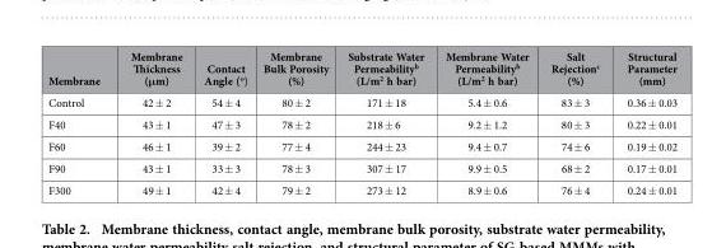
<table><thead><tr><td>Membrane</td><td>Membrane Thickness (μm)</td><td>Contact Angle (<sup>ο</sup>)</td><td>Membrane Bulk Porosity (%)</td><td>Substrate Water Permeability<sup>b</sup> (L/m<sup>2</sup> h bar)</td><td>Membrane Water Permeability<sup>b</sup> (L/m<sup>2</sup> h bar)</td><td>Salt Rejection<sup>c</sup> (%)</td><td>Structural Parameter (mm)</td></tr></thead><tbody><tr><td>Control</td><td>42 ± 2</td><td>54 ± 4</td><td>80 ± 2</td><td>171 ± 18</td><td>5.4 ± 0.6</td><td>83 ± 3</td><td>0.36 ± 0.03</td></tr><tr><td>F40</td><td>43 ± 1</td><td>47 ± 3</td><td>78 ± 2</td><td>218 ± 6</td><td>9.2 ± 1.2</td><td>80 ± 3</td><td>0.22 ± 0.01</td></tr><tr><td>F60</td><td>46 ± 1</td><td>39 ± 2</td><td>77 ± 4</td><td>244 ± 23</td><td>9.4 ± 0.7</td><td>74 ± 6</td><td>0.19 ± 0.02</td></tr><tr><td>F90</td><td>43 ± 1</td><td>33 ± 3</td><td>78 ± 3</td><td>307 ± 17</td><td>9.9 ± 0.5</td><td>68 ± 2</td><td>0.17 ± 0.01</td></tr><tr><td>F300</td><td>49 ± 1</td><td>42 ± 4</td><td>79 ± 2</td><td>273 ± 12</td><td>8.9 ± 0.6</td><td>76 ± 4</td><td>0.24 ± 0.01</td></tr></tbody></table>